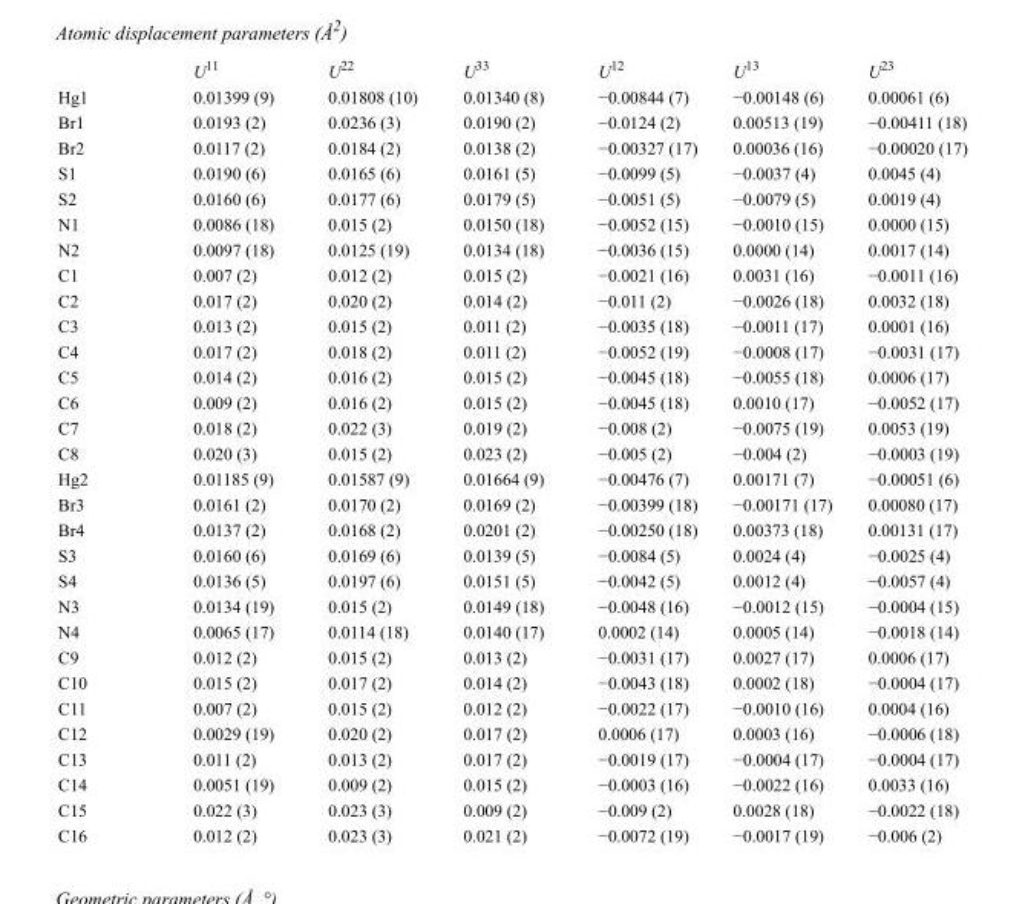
<table><thead><tr><td></td><td>U<sup>11</sup></td><td>U<sup>22</sup></td><td>U<sup>33</sup></td><td>U<sup>12</sup></td><td>U<sup>13</sup></td><td>U<sup>23</sup></td></tr></thead><tbody><tr><td>Hg1</td><td>0.01399 (9)</td><td>0.01808 (10)</td><td>0.01340 (8)</td><td>−0.00844 (7)</td><td>−0.00148 (6)</td><td>0.00061 (6)</td></tr><tr><td>Br1</td><td>0.0193 (2)</td><td>0.0236 (3)</td><td>0.0190 (2)</td><td>−0.0124 (2)</td><td>0.00513 (19)</td><td>−0.00411 (18)</td></tr><tr><td>Br2</td><td>0.0117 (2)</td><td>0.0184 (2)</td><td>0.0138 (2)</td><td>−0.00327 (17)</td><td>0.00036 (16)</td><td>−0.00020 (17)</td></tr><tr><td>S1</td><td>0.0190 (6)</td><td>0.0165 (6)</td><td>0.0161 (5)</td><td>−0.0099 (5)</td><td>−0.0037 (4)</td><td>0.0045 (4)</td></tr><tr><td>S2</td><td>0.0160 (6)</td><td>0.0177 (6)</td><td>0.0179 (5)</td><td>−0.0051 (5)</td><td>−0.0079 (5)</td><td>0.0019 (4)</td></tr><tr><td>N1</td><td>0.0086 (18)</td><td>0.015 (2)</td><td>0.0150 (18)</td><td>−0.0052 (15)</td><td>−0.0010 (15)</td><td>0.0000 (15)</td></tr><tr><td>N2</td><td>0.0097 (18)</td><td>0.0125 (19)</td><td>0.0134 (18)</td><td>−0.0036 (15)</td><td>0.0000 (14)</td><td>0.0017 (14)</td></tr><tr><td>C1</td><td>0.007 (2)</td><td>0.012 (2)</td><td>0.015 (2)</td><td>−0.0021 (16)</td><td>0.0031 (16)</td><td>−0.0011 (16)</td></tr><tr><td>C2</td><td>0.017 (2)</td><td>0.020 (2)</td><td>0.014 (2)</td><td>−0.011 (2)</td><td>−0.0026 (18)</td><td>0.0032 (18)</td></tr><tr><td>C3</td><td>0.013 (2)</td><td>0.015 (2)</td><td>0.011 (2)</td><td>−0.0035 (18)</td><td>−0.0011 (17)</td><td>0.0001 (16)</td></tr><tr><td>C4</td><td>0.017 (2)</td><td>0.018 (2)</td><td>0.011 (2)</td><td>−0.0052 (19)</td><td>−0.0008 (17)</td><td>−0.0031 (17)</td></tr><tr><td>C5</td><td>0.014 (2)</td><td>0.016 (2)</td><td>0.015 (2)</td><td>−0.0045 (18)</td><td>−0.0055 (18)</td><td>0.0006 (17)</td></tr><tr><td>C6</td><td>0.009 (2)</td><td>0.016 (2)</td><td>0.015 (2)</td><td>−0.0045 (18)</td><td>0.0010 (17)</td><td>−0.0052 (17)</td></tr><tr><td>C7</td><td>0.018 (2)</td><td>0.022 (3)</td><td>0.019 (2)</td><td>−0.008 (2)</td><td>−0.0075 (19)</td><td>0.0053 (19)</td></tr><tr><td>C8</td><td>0.020 (3)</td><td>0.015 (2)</td><td>0.023 (2)</td><td>−0.005 (2)</td><td>−0.004 (2)</td><td>−0.0003 (19)</td></tr><tr><td>Hg2</td><td>0.01185 (9)</td><td>0.01587 (9)</td><td>0.01664 (9)</td><td>−0.00476 (7)</td><td>0.00171 (7)</td><td>−0.00051 (6)</td></tr><tr><td>Br3</td><td>0.0161 (2)</td><td>0.0170 (2)</td><td>0.0169 (2)</td><td>−0.00399 (18)</td><td>−0.00171 (17)</td><td>0.00080 (17)</td></tr><tr><td>Br4</td><td>0.0137 (2)</td><td>0.0168 (2)</td><td>0.0201 (2)</td><td>−0.00250 (18)</td><td>0.00373 (18)</td><td>0.00131 (17)</td></tr><tr><td>S3</td><td>0.0160 (6)</td><td>0.0169 (6)</td><td>0.0139 (5)</td><td>−0.0084 (5)</td><td>0.0024 (4)</td><td>−0.0025 (4)</td></tr><tr><td>S4</td><td>0.0136 (5)</td><td>0.0197 (6)</td><td>0.0151 (5)</td><td>−0.0042 (5)</td><td>0.0012 (4)</td><td>−0.0057 (4)</td></tr><tr><td>N3</td><td>0.0134 (19)</td><td>0.015 (2)</td><td>0.0149 (18)</td><td>−0.0048 (16)</td><td>−0.0012 (15)</td><td>−0.0004 (15)</td></tr><tr><td>N4</td><td>0.0065 (17)</td><td>0.0114 (18)</td><td>0.0140 (17)</td><td>0.0002 (14)</td><td>0.0005 (14)</td><td>−0.0018 (14)</td></tr><tr><td>C9</td><td>0.012 (2)</td><td>0.015 (2)</td><td>0.013 (2)</td><td>−0.0031 (17)</td><td>0.0027 (17)</td><td>0.0006 (17)</td></tr><tr><td>C10</td><td>0.015 (2)</td><td>0.017 (2)</td><td>0.014 (2)</td><td>−0.0043 (18)</td><td>0.0002 (18)</td><td>−0.0004 (17)</td></tr><tr><td>C11</td><td>0.007 (2)</td><td>0.015 (2)</td><td>0.012 (2)</td><td>−0.0022 (17)</td><td>−0.0010 (16)</td><td>0.0004 (16)</td></tr><tr><td>C12</td><td>0.0029 (19)</td><td>0.020 (2)</td><td>0.017 (2)</td><td>0.0006 (17)</td><td>0.0003 (16)</td><td>−0.0006 (18)</td></tr><tr><td>C13</td><td>0.011 (2)</td><td>0.013 (2)</td><td>0.017 (2)</td><td>−0.0019 (17)</td><td>−0.0004 (17)</td><td>−0.0004 (17)</td></tr><tr><td>C14</td><td>0.0051 (19)</td><td>0.009 (2)</td><td>0.015 (2)</td><td>−0.0003 (16)</td><td>−0.0022 (16)</td><td>0.0033 (16)</td></tr><tr><td>C15</td><td>0.022 (3)</td><td>0.023 (3)</td><td>0.009 (2)</td><td>−0.009 (2)</td><td>0.0028 (18)</td><td>−0.0022 (18)</td></tr><tr><td>C16</td><td>0.012 (2)</td><td>0.023 (3)</td><td>0.021 (2)</td><td>−0.0072 (19)</td><td>−0.0017 (19)</td><td>−0.006 (2)</td></tr></tbody></table>